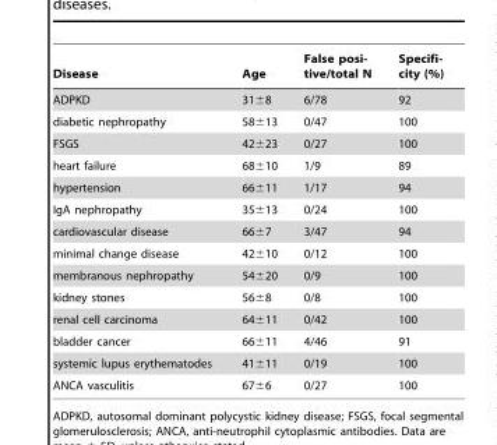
<table><thead><tr><td>Disease</td><td>Age</td><td>False posi- tive/total N</td><td>Specifi- city (%)</td></tr></thead><tbody><tr><td>ADPKD</td><td>31±8</td><td>6/78</td><td>92</td></tr><tr><td>diabetic nephropathy</td><td>58±13</td><td>0/47</td><td>100</td></tr><tr><td>FSGS</td><td>42±23</td><td>0/27</td><td>100</td></tr><tr><td>heart failure</td><td>68±10</td><td>1/9</td><td>89</td></tr><tr><td>hypertension</td><td>66±11</td><td>1/17</td><td>94</td></tr><tr><td>IgA nephropathy</td><td>35±13</td><td>0/24</td><td>100</td></tr><tr><td>cardiovascular disease</td><td>66±7</td><td>3/47</td><td>94</td></tr><tr><td>minimal change disease</td><td>42±10</td><td>0/12</td><td>100</td></tr><tr><td>membranous nephropathy</td><td>54±20</td><td>0/9</td><td>100</td></tr><tr><td>kidney stones</td><td>56±8</td><td>0/8</td><td>100</td></tr><tr><td>renal cell carcinoma</td><td>64±11</td><td>0/42</td><td>100</td></tr><tr><td>bladder cancer</td><td>66±11</td><td>4/46</td><td>91</td></tr><tr><td>systemic lupus erythematodes</td><td>41±11</td><td>0/19</td><td>100</td></tr><tr><td>ANCA vasculitis</td><td>67±6</td><td>0/27</td><td>100</td></tr></tbody></table>